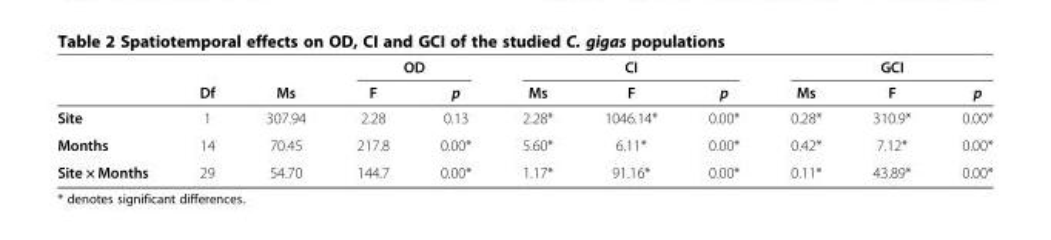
<table><thead><tr><td rowspan="2"></td><td rowspan="2">Df</td><td rowspan="2">Ms</td><td colspan="2">OD</td><td colspan="3">CI</td><td colspan="3">GCI</td></tr><tr><td>F</td><td>p</td><td>Ms</td><td>F</td><td>p</td><td>Ms</td><td>F</td><td>p</td></tr></thead><tbody><tr><td>Site</td><td>1</td><td>307.94</td><td>2.28</td><td>0.13</td><td>2.28*</td><td>1046.14*</td><td>0.00*</td><td>0.28*</td><td>310.9*</td><td>0.00*</td></tr><tr><td>Months</td><td>14</td><td>70.45</td><td>217.8</td><td>0.00*</td><td>5.60*</td><td>6.11*</td><td>0.00*</td><td>0.42*</td><td>7.12*</td><td>0.00*</td></tr><tr><td>Site × Months</td><td>29</td><td>54.70</td><td>144.7</td><td>0.00*</td><td>1.17*</td><td>91.16*</td><td>0.00*</td><td>0.11*</td><td>43.89*</td><td>0.00*</td></tr></tbody></table>